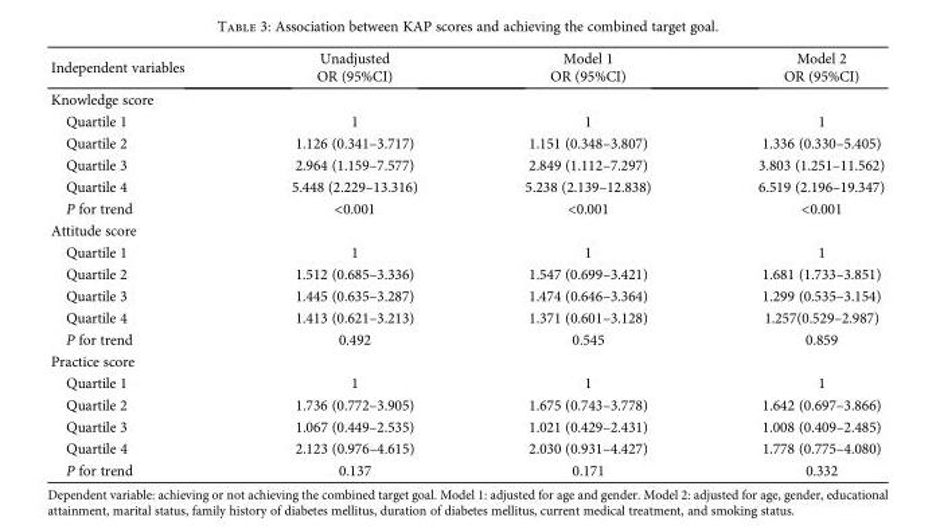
<table><thead><tr><td>Independent variables</td><td>Unadjusted OR (95%CI)</td><td>Model 1 OR (95%CI)</td><td>Model 2 OR (95%CI)</td></tr></thead><tbody><tr><td colspan="4">Knowledge score</td></tr><tr><td>Quartile 1</td><td>1</td><td>1</td><td>1</td></tr><tr><td>Quartile 2</td><td>1.126 (0.341–3.717)</td><td>1.151 (0.348–3.807)</td><td>1.336 (0.330–5.405)</td></tr><tr><td>Quartile 3</td><td>2.964 (1.159–7.577)</td><td>2.849 (1.112–7.297)</td><td>3.803 (1.251–11.562)</td></tr><tr><td>Quartile 4</td><td>5.448 (2.229–13.316)</td><td>5.238 (2.139–12.838)</td><td>6.519 (2.196–19.347)</td></tr><tr><td>P for trend</td><td>&lt;0.001</td><td>&lt;0.001</td><td>&lt;0.001</td></tr><tr><td colspan="4">Attitude score</td></tr><tr><td>Quartile 1</td><td>1</td><td>1</td><td>1</td></tr><tr><td>Quartile 2</td><td>1.512 (0.685–3.336)</td><td>1.547 (0.699–3.421)</td><td>1.681 (1.733–3.851)</td></tr><tr><td>Quartile 3</td><td>1.445 (0.635–3.287)</td><td>1.474 (0.646–3.364)</td><td>1.299 (0.535–3.154)</td></tr><tr><td>Quartile 4</td><td>1.413 (0.621–3.213)</td><td>1.371 (0.601–3.128)</td><td>1.257(0.529–2.987)</td></tr><tr><td>P for trend</td><td>0.492</td><td>0.545</td><td>0.859</td></tr><tr><td colspan="4">Practice score</td></tr><tr><td>Quartile 1</td><td>1</td><td>1</td><td>1</td></tr><tr><td>Quartile 2</td><td>1.736 (0.772–3.905)</td><td>1.675 (0.743–3.778)</td><td>1.642 (0.697–3.866)</td></tr><tr><td>Quartile 3</td><td>1.067 (0.449–2.535)</td><td>1.021 (0.429–2.431)</td><td>1.008 (0.409–2.485)</td></tr><tr><td>Quartile 4</td><td>2.123 (0.976–4.615)</td><td>2.030 (0.931–4.427)</td><td>1.778 (0.775–4.080)</td></tr><tr><td>P for trend</td><td>0.137</td><td>0.171</td><td>0.332</td></tr></tbody></table>